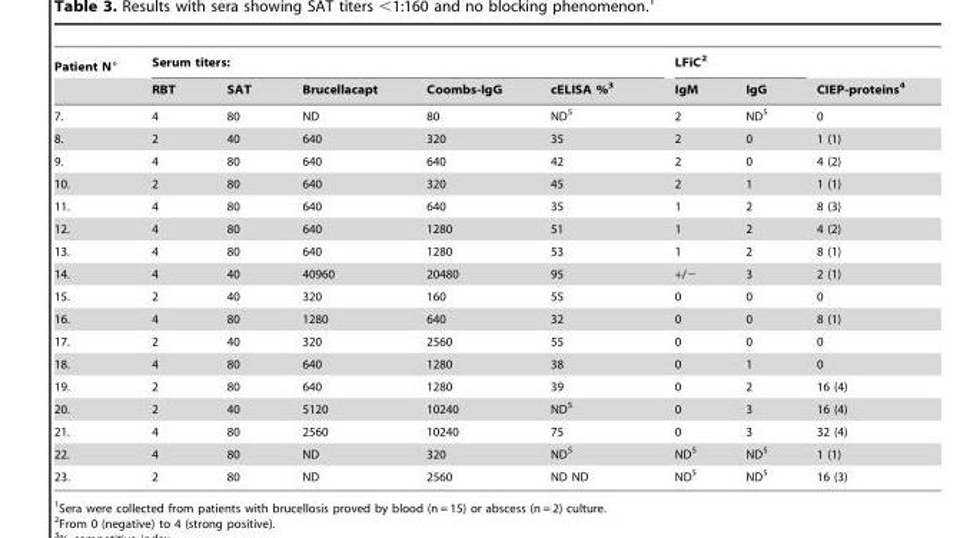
<table><thead><tr><td rowspan="2">Patient N°</td><td colspan="5">Serum titers:</td><td colspan="2">LFiC<sup>2</sup></td><td rowspan="2">CIEP-proteins<sup>4</sup></td></tr><tr><td>RBT</td><td>SAT</td><td>Brucellacapt</td><td>Coombs-IgG</td><td>cELISA %<sup>3</sup></td><td>IgM</td><td>IgG</td></tr></thead><tbody><tr><td>7.</td><td>4</td><td>80</td><td>ND</td><td>80</td><td>ND<sup>5</sup></td><td>2</td><td>ND<sup>5</sup></td><td>0</td></tr><tr><td>8.</td><td>2</td><td>40</td><td>640</td><td>320</td><td>35</td><td>2</td><td>0</td><td>1 (1)</td></tr><tr><td>9.</td><td>4</td><td>80</td><td>640</td><td>640</td><td>42</td><td>2</td><td>0</td><td>4 (2)</td></tr><tr><td>10.</td><td>2</td><td>80</td><td>640</td><td>320</td><td>45</td><td>2</td><td>1</td><td>1 (1)</td></tr><tr><td>11.</td><td>4</td><td>80</td><td>640</td><td>640</td><td>35</td><td>1</td><td>2</td><td>8 (3)</td></tr><tr><td>12.</td><td>4</td><td>80</td><td>640</td><td>1280</td><td>51</td><td>1</td><td>2</td><td>4 (2)</td></tr><tr><td>13.</td><td>4</td><td>80</td><td>640</td><td>1280</td><td>53</td><td>1</td><td>2</td><td>8 (1)</td></tr><tr><td>14.</td><td>4</td><td>40</td><td>40960</td><td>20480</td><td>95</td><td>+/−</td><td>3</td><td>2 (1)</td></tr><tr><td>15.</td><td>2</td><td>40</td><td>320</td><td>160</td><td>55</td><td>0</td><td>0</td><td>0</td></tr><tr><td>16.</td><td>4</td><td>80</td><td>1280</td><td>640</td><td>32</td><td>0</td><td>0</td><td>8 (1)</td></tr><tr><td>17.</td><td>2</td><td>40</td><td>320</td><td>2560</td><td>55</td><td>0</td><td>0</td><td>0</td></tr><tr><td>18.</td><td>4</td><td>80</td><td>640</td><td>1280</td><td>38</td><td>0</td><td>1</td><td>0</td></tr><tr><td>19.</td><td>2</td><td>80</td><td>640</td><td>1280</td><td>39</td><td>0</td><td>2</td><td>16 (4)</td></tr><tr><td>20.</td><td>2</td><td>40</td><td>5120</td><td>10240</td><td>ND<sup>5</sup></td><td>0</td><td>3</td><td>16 (4)</td></tr><tr><td>21.</td><td>4</td><td>80</td><td>2560</td><td>10240</td><td>75</td><td>0</td><td>3</td><td>32 (4)</td></tr><tr><td>22.</td><td>4</td><td>80</td><td>ND</td><td>320</td><td>ND<sup>5</sup></td><td>ND<sup>5</sup></td><td>ND<sup>5</sup></td><td>1 (1)</td></tr><tr><td>23.</td><td>2</td><td>80</td><td>ND</td><td>2560</td><td>ND ND</td><td>ND<sup>5</sup></td><td>ND<sup>5</sup></td><td>16 (3)</td></tr></tbody></table>